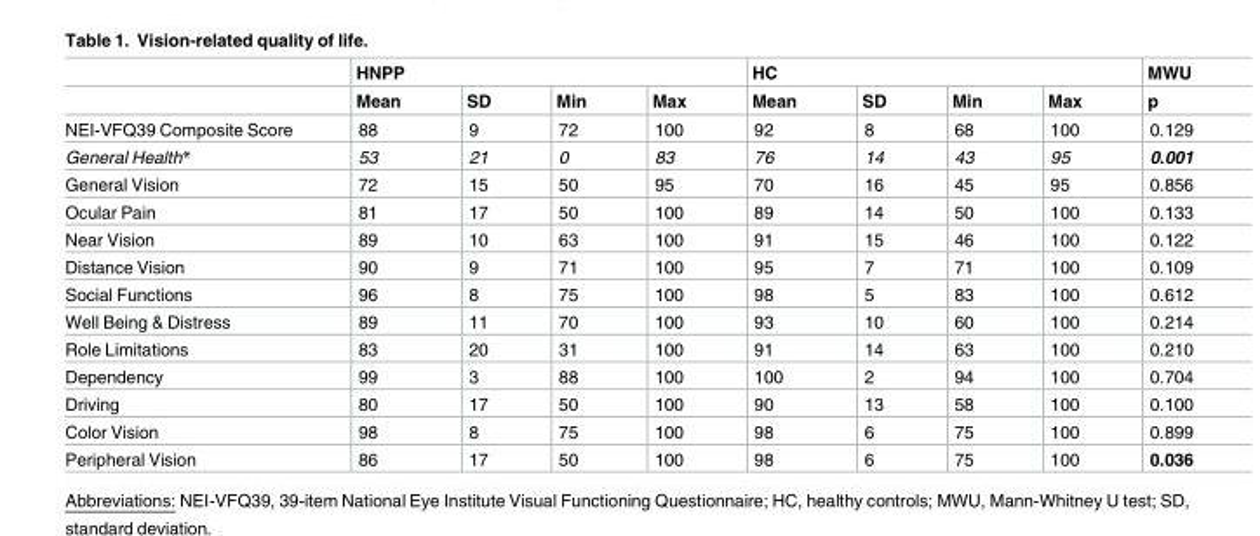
<table><thead><tr><td rowspan="2"></td><td colspan="4">HNPP</td><td colspan="4">HC</td><td rowspan="2">MWU p</td></tr><tr><td>Mean</td><td>SD</td><td>Min</td><td>Max</td><td>Mean</td><td>SD</td><td>Min</td><td>Max</td></tr></thead><tbody><tr><td>NEI-VFQ39 Composite Score</td><td>88</td><td>9</td><td>72</td><td>100</td><td>92</td><td>8</td><td>68</td><td>100</td><td>0.129</td></tr><tr><td>General Health*</td><td>53</td><td>21</td><td>0</td><td>83</td><td>76</td><td>14</td><td>43</td><td>95</td><td>0.001</td></tr><tr><td>General Vision</td><td>72</td><td>15</td><td>50</td><td>95</td><td>70</td><td>16</td><td>45</td><td>95</td><td>0.856</td></tr><tr><td>Ocular Pain</td><td>81</td><td>17</td><td>50</td><td>100</td><td>89</td><td>14</td><td>50</td><td>100</td><td>0.133</td></tr><tr><td>Near Vision</td><td>89</td><td>10</td><td>63</td><td>100</td><td>91</td><td>15</td><td>46</td><td>100</td><td>0.122</td></tr><tr><td>Distance Vision</td><td>90</td><td>9</td><td>71</td><td>100</td><td>95</td><td>7</td><td>71</td><td>100</td><td>0.109</td></tr><tr><td>Social Functions</td><td>96</td><td>8</td><td>75</td><td>100</td><td>98</td><td>5</td><td>83</td><td>100</td><td>0.612</td></tr><tr><td>Well Being &amp; Distress</td><td>89</td><td>11</td><td>70</td><td>100</td><td>93</td><td>10</td><td>60</td><td>100</td><td>0.214</td></tr><tr><td>Role Limitations</td><td>83</td><td>20</td><td>31</td><td>100</td><td>91</td><td>14</td><td>63</td><td>100</td><td>0.210</td></tr><tr><td>Dependency</td><td>99</td><td>3</td><td>88</td><td>100</td><td>100</td><td>2</td><td>94</td><td>100</td><td>0.704</td></tr><tr><td>Driving</td><td>80</td><td>17</td><td>50</td><td>100</td><td>90</td><td>13</td><td>58</td><td>100</td><td>0.100</td></tr><tr><td>Color Vision</td><td>98</td><td>8</td><td>75</td><td>100</td><td>98</td><td>6</td><td>75</td><td>100</td><td>0.899</td></tr><tr><td>Peripheral Vision</td><td>86</td><td>17</td><td>50</td><td>100</td><td>98</td><td>6</td><td>75</td><td>100</td><td>0.036</td></tr></tbody></table>